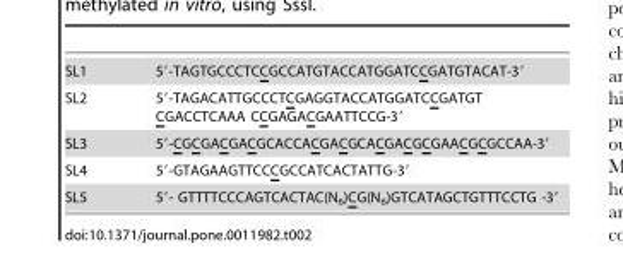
<table><tbody><tr><td>SL1</td><td>5′-TAGTGCCCTCCGCCATGTACCATGGATCCGATGTACAT-3′</td></tr><tr><td>SL2</td><td>5′-TAGACATTGCCCTCGAGGTACCATGGATCCGATGT CGACCTCAAA CCGAGACGAATTCCG-3′</td></tr><tr><td>SL3</td><td>5′-CGCGACGACGCACCACGACGCACGACGCGAACGCGCCAA-3′</td></tr><tr><td>SL4</td><td>5′-GTAGAAGTTCCCGCCATCACTATTG-3′</td></tr><tr><td>SL5</td><td>5′- GTTTTCCCAGTCACTAC(N<sub>6</sub>)CG(N<sub>6</sub>)GTCATAGCTGTTTCCTG -3′</td></tr></tbody></table>